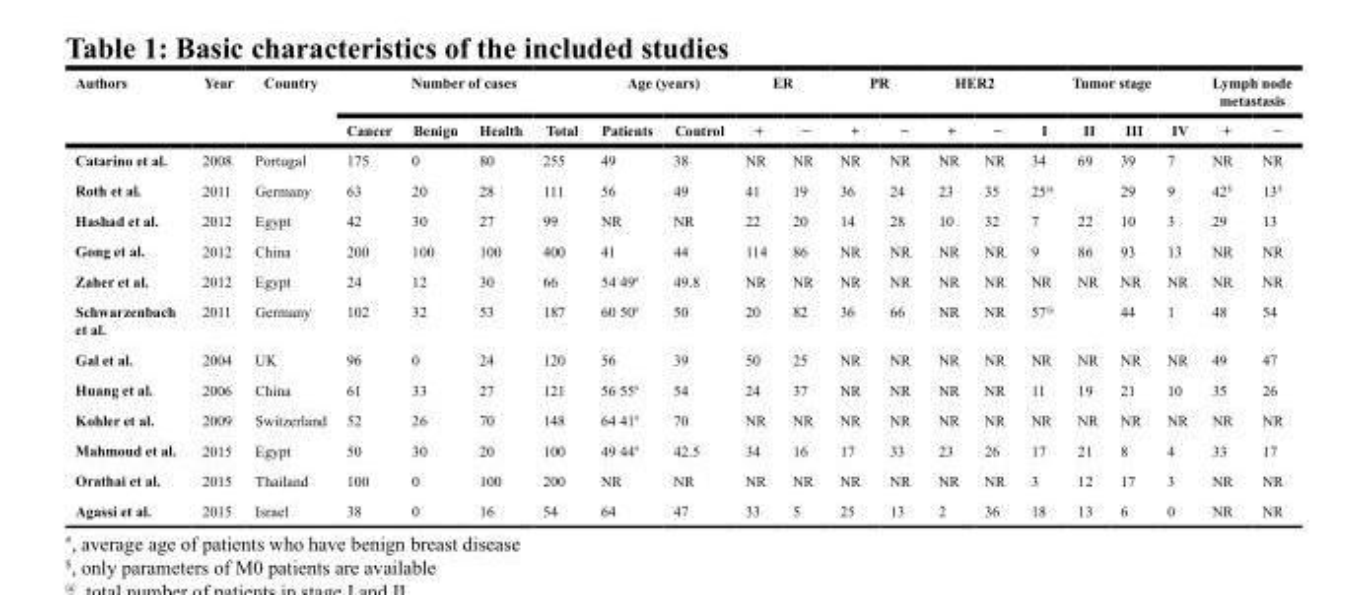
<table><thead><tr><td rowspan="2">Authors</td><td rowspan="2">Year</td><td rowspan="2">Country</td><td colspan="4">Number of cases</td><td colspan="2">Age (years)</td><td colspan="2">ER</td><td colspan="2">PR</td><td colspan="2">HER2</td><td colspan="4">Tumor stage</td><td colspan="2">Lymph node metastasis</td></tr><tr><td>Cancer</td><td>Benign</td><td>Health</td><td>Total</td><td>Patients</td><td>Control</td><td>+</td><td>−</td><td>+</td><td>−</td><td>+</td><td>−</td><td>I</td><td>II</td><td>III</td><td>IV</td><td>+</td><td>−</td></tr></thead><tbody><tr><td>Catarino et al.</td><td>2008</td><td>Portugal</td><td>175</td><td>0</td><td>80</td><td>255</td><td>49</td><td>38</td><td>NR</td><td>NR</td><td>NR</td><td>NR</td><td>NR</td><td>NR</td><td>34</td><td>69</td><td>39</td><td>7</td><td>NR</td><td>NR</td></tr><tr><td>Roth et al.</td><td>2011</td><td>Germany</td><td>63</td><td>20</td><td>28</td><td>111</td><td>56</td><td>49</td><td>41</td><td>19</td><td>36</td><td>24</td><td>23</td><td>35</td><td colspan="2">25<sup>@</sup></td><td>29</td><td>9</td><td>42<sup>$</sup></td><td>13<sup>$</sup></td></tr><tr><td>Hashad et al.</td><td>2012</td><td>Egypt</td><td>42</td><td>30</td><td>27</td><td>99</td><td>NR</td><td>NR</td><td>22</td><td>20</td><td>14</td><td>28</td><td>10</td><td>32</td><td>7</td><td>22</td><td>10</td><td>3</td><td>29</td><td>13</td></tr><tr><td>Gong et al.</td><td>2012</td><td>China</td><td>200</td><td>100</td><td>100</td><td>400</td><td>41</td><td>44</td><td>114</td><td>86</td><td>NR</td><td>NR</td><td>NR</td><td>NR</td><td>9</td><td>86</td><td>93</td><td>13</td><td>NR</td><td>NR</td></tr><tr><td>Zaher et al.</td><td>2012</td><td>Egypt</td><td>24</td><td>12</td><td>30</td><td>66</td><td>54 49<sup>#</sup></td><td>49.8</td><td>NR</td><td>NR</td><td>NR</td><td>NR</td><td>NR</td><td>NR</td><td>NR</td><td>NR</td><td>NR</td><td>NR</td><td>NR</td><td>NR</td></tr><tr><td>Schwarzenbach et al.</td><td>2011</td><td>Germany</td><td>102</td><td>32</td><td>53</td><td>187</td><td>60 50<sup>#</sup></td><td>50</td><td>20</td><td>82</td><td>36</td><td>66</td><td>NR</td><td>NR</td><td>57<sup>@</sup></td><td></td><td>44</td><td>1</td><td>48</td><td>54</td></tr><tr><td>Gal et al.</td><td>2004</td><td>UK</td><td>96</td><td>0</td><td>24</td><td>120</td><td>56</td><td>39</td><td>50</td><td>25</td><td>NR</td><td>NR</td><td>NR</td><td>NR</td><td>NR</td><td>NR</td><td>NR</td><td>NR</td><td>49</td><td>47</td></tr><tr><td>Huang et al.</td><td>2006</td><td>China</td><td>61</td><td>33</td><td>27</td><td>121</td><td>56 55<sup>#</sup></td><td>54</td><td>24</td><td>37</td><td>NR</td><td>NR</td><td>NR</td><td>NR</td><td>11</td><td>19</td><td>21</td><td>10</td><td>35</td><td>26</td></tr><tr><td>Kohler et al.</td><td>2009</td><td>Switzerland</td><td>52</td><td>26</td><td>70</td><td>148</td><td>64 41<sup>#</sup></td><td>70</td><td>NR</td><td>NR</td><td>NR</td><td>NR</td><td>NR</td><td>NR</td><td>NR</td><td>NR</td><td>NR</td><td>NR</td><td>NR</td><td>NR</td></tr><tr><td>Mahmoud et al.</td><td>2015</td><td>Egypt</td><td>50</td><td>30</td><td>20</td><td>100</td><td>49 44<sup>#</sup></td><td>42.5</td><td>34</td><td>16</td><td>17</td><td>33</td><td>23</td><td>26</td><td>17</td><td>21</td><td>8</td><td>4</td><td>33</td><td>17</td></tr><tr><td>Orathai et al.</td><td>2015</td><td>Thailand</td><td>100</td><td>0</td><td>100</td><td>200</td><td>NR</td><td>NR</td><td>NR</td><td>NR</td><td>NR</td><td>NR</td><td>NR</td><td>NR</td><td>3</td><td>12</td><td>17</td><td>3</td><td>NR</td><td>NR</td></tr><tr><td>Agassi et al.</td><td>2015</td><td>Israel</td><td>38</td><td>0</td><td>16</td><td>54</td><td>64</td><td>47</td><td>33</td><td>5</td><td>25</td><td>13</td><td>2</td><td>36</td><td>18</td><td>13</td><td>6</td><td>0</td><td>NR</td><td>NR</td></tr></tbody></table>